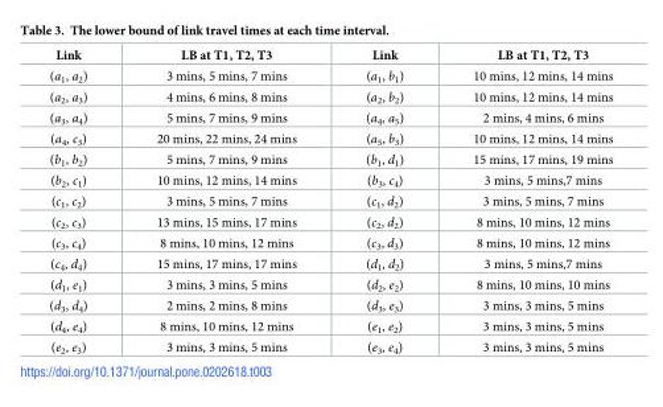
<table><thead><tr><td>Link</td><td>LB at T1, T2, T3</td><td>Link</td><td>LB at T1, T2, T3</td></tr></thead><tbody><tr><td>(a<sub>1</sub>, a<sub>2</sub>)</td><td>3 mins, 5 mins, 7 mins</td><td>(a<sub>1</sub>, b<sub>1</sub>)</td><td>10 mins, 12 mins, 14 mins</td></tr><tr><td>(a<sub>2</sub>, a<sub>3</sub>)</td><td>4 mins, 6 mins, 8 mins</td><td>(a<sub>2</sub>, b<sub>2</sub>)</td><td>10 mins, 12 mins, 14 mins</td></tr><tr><td>(a<sub>3</sub>, a<sub>4</sub>)</td><td>5 mins, 7 mins, 9 mins</td><td>(a<sub>4</sub>, a<sub>5</sub>)</td><td>2 mins, 4 mins, 6 mins</td></tr><tr><td>(a<sub>4</sub>, c<sub>3</sub>)</td><td>20 mins, 22 mins, 24 mins</td><td>(a<sub>5</sub>, b<sub>3</sub>)</td><td>10 mins, 12 mins, 14 mins</td></tr><tr><td>(b<sub>1</sub>, b<sub>2</sub>)</td><td>5 mins, 7 mins, 9 mins</td><td>(b<sub>1</sub>, d<sub>1</sub>)</td><td>15 mins, 17 mins, 19 mins</td></tr><tr><td>(b<sub>2</sub>, c<sub>1</sub>)</td><td>10 mins, 12 mins, 14 mins</td><td>(b<sub>3</sub>, c<sub>4</sub>)</td><td>3 mins, 5 mins,7 mins</td></tr><tr><td>(c<sub>1</sub>, c<sub>2</sub>)</td><td>3 mins, 5 mins, 7 mins</td><td>(c<sub>1</sub>, d<sub>2</sub>)</td><td>3 mins, 5 mins, 7 mins</td></tr><tr><td>(c<sub>2</sub>, c<sub>3</sub>)</td><td>13 mins, 15 mins, 17 mins</td><td>(c<sub>2</sub>, d<sub>2</sub>)</td><td>8 mins, 10 mins, 12 mins</td></tr><tr><td>(c<sub>3</sub>, c<sub>4</sub>)</td><td>8 mins, 10 mins, 12 mins</td><td>(c<sub>3</sub>, d<sub>3</sub>)</td><td>8 mins, 10 mins, 12 mins</td></tr><tr><td>(c<sub>4</sub>, d<sub>4</sub>)</td><td>15 mins, 17 mins, 17 mins</td><td>(d<sub>1</sub>, d<sub>2</sub>)</td><td>3 mins, 5 mins,7 mins</td></tr><tr><td>(d<sub>1</sub>, e<sub>1</sub>)</td><td>3 mins, 3 mins, 5 mins</td><td>(d<sub>2</sub>, e<sub>2</sub>)</td><td>8 mins, 10 mins, 10 mins</td></tr><tr><td>(d<sub>3</sub>, d<sub>4</sub>)</td><td>2 mins, 2 mins, 8 mins</td><td>(d<sub>3</sub>, e<sub>3</sub>)</td><td>3 mins, 3 mins, 5 mins</td></tr><tr><td>(d<sub>4</sub>, e<sub>4</sub>)</td><td>8 mins, 10 mins, 12 mins</td><td>(e<sub>1</sub>, e<sub>2</sub>)</td><td>3 mins, 3 mins, 5 mins</td></tr><tr><td>(e<sub>2</sub>, e<sub>3</sub>)</td><td>3 mins, 3 mins, 5 mins</td><td>(e<sub>3</sub>, e<sub>4</sub>)</td><td>3 mins, 3 mins, 5 mins</td></tr></tbody></table>